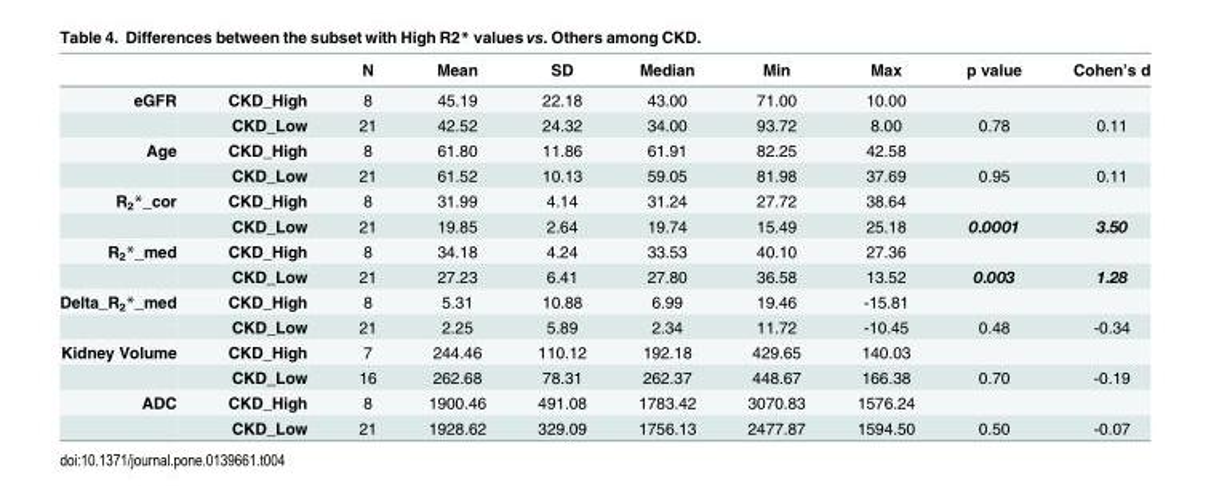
<table><thead><tr><td></td><td></td><td>N</td><td>Mean</td><td>SD</td><td>Median</td><td>Min</td><td>Max</td><td>p value</td><td>Cohen’s d</td></tr></thead><tbody><tr><td rowspan="2">eGFR</td><td>CKD_High</td><td>8</td><td>45.19</td><td>22.18</td><td>43.00</td><td>71.00</td><td>10.00</td><td></td><td></td></tr><tr><td>CKD_Low</td><td>21</td><td>42.52</td><td>24.32</td><td>34.00</td><td>93.72</td><td>8.00</td><td>0.78</td><td>0.11</td></tr><tr><td rowspan="2">Age</td><td>CKD_High</td><td>8</td><td>61.80</td><td>11.86</td><td>61.91</td><td>82.25</td><td>42.58</td><td></td><td></td></tr><tr><td>CKD_Low</td><td>21</td><td>61.52</td><td>10.13</td><td>59.05</td><td>81.98</td><td>37.69</td><td>0.95</td><td>0.11</td></tr><tr><td rowspan="2">R<sub>2</sub>*_cor</td><td>CKD_High</td><td>8</td><td>31.99</td><td>4.14</td><td>31.24</td><td>27.72</td><td>38.64</td><td></td><td></td></tr><tr><td>CKD_Low</td><td>21</td><td>19.85</td><td>2.64</td><td>19.74</td><td>15.49</td><td>25.18</td><td>0.0001</td><td>3.50</td></tr><tr><td rowspan="2">R<sub>2</sub>*_med</td><td>CKD_High</td><td>8</td><td>34.18</td><td>4.24</td><td>33.53</td><td>40.10</td><td>27.36</td><td></td><td></td></tr><tr><td>CKD_Low</td><td>21</td><td>27.23</td><td>6.41</td><td>27.80</td><td>36.58</td><td>13.52</td><td>0.003</td><td>1.28</td></tr><tr><td rowspan="2">Delta_R<sub>2</sub>*_med</td><td>CKD_High</td><td>8</td><td>5.31</td><td>10.88</td><td>6.99</td><td>19.46</td><td>-15.81</td><td></td><td></td></tr><tr><td>CKD_Low</td><td>21</td><td>2.25</td><td>5.89</td><td>2.34</td><td>11.72</td><td>-10.45</td><td>0.48</td><td>-0.34</td></tr><tr><td rowspan="2">Kidney Volume</td><td>CKD_High</td><td>7</td><td>244.46</td><td>110.12</td><td>192.18</td><td>429.65</td><td>140.03</td><td></td><td></td></tr><tr><td>CKD_Low</td><td>16</td><td>262.68</td><td>78.31</td><td>262.37</td><td>448.67</td><td>166.38</td><td>0.70</td><td>-0.19</td></tr><tr><td rowspan="2">ADC</td><td>CKD_High</td><td>8</td><td>1900.46</td><td>491.08</td><td>1783.42</td><td>3070.83</td><td>1576.24</td><td></td><td></td></tr><tr><td>CKD_Low</td><td>21</td><td>1928.62</td><td>329.09</td><td>1756.13</td><td>2477.87</td><td>1594.50</td><td>0.50</td><td>-0.07</td></tr></tbody></table>